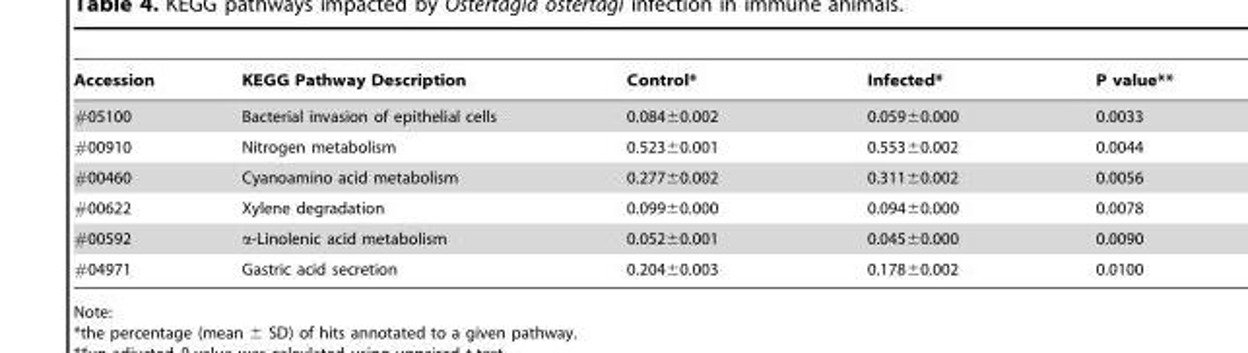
<table><thead><tr><td>Accession</td><td>KEGG Pathway Description</td><td>Control*</td><td>Infected*</td><td>P value**</td></tr></thead><tbody><tr><td>#05100</td><td>Bacterial invasion of epithelial cells</td><td>0.084±0.002</td><td>0.059±0.000</td><td>0.0033</td></tr><tr><td>#00910</td><td>Nitrogen metabolism</td><td>0.523±0.001</td><td>0.553±0.002</td><td>0.0044</td></tr><tr><td>#00460</td><td>Cyanoamino acid metabolism</td><td>0.277±0.002</td><td>0.311±0.002</td><td>0.0056</td></tr><tr><td>#00622</td><td>Xylene degradation</td><td>0.099±0.000</td><td>0.094±0.000</td><td>0.0078</td></tr><tr><td>#00592</td><td>α-Linolenic acid metabolism</td><td>0.052±0.001</td><td>0.045±0.000</td><td>0.0090</td></tr><tr><td>#04971</td><td>Gastric acid secretion</td><td>0.204±0.003</td><td>0.178±0.002</td><td>0.0100</td></tr></tbody></table>